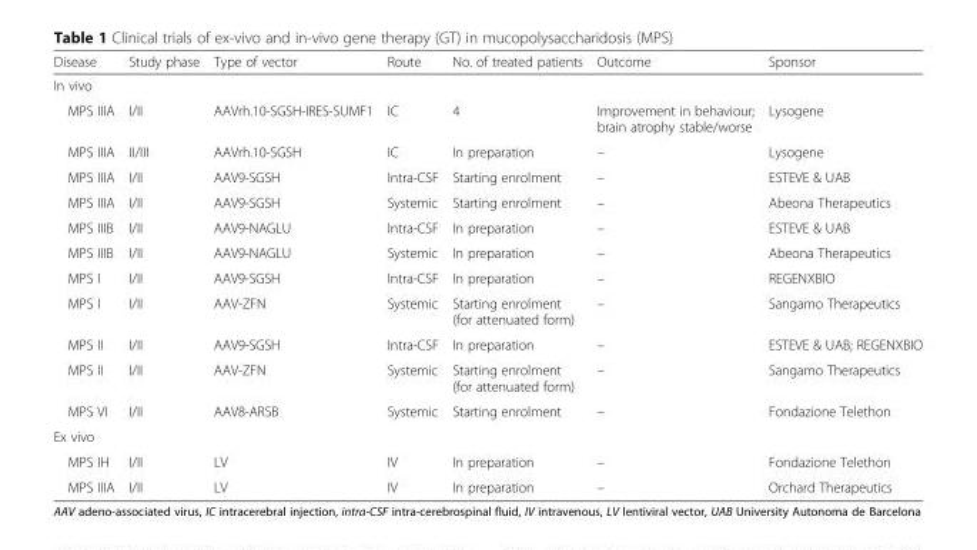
<table><thead><tr><td>Disease</td><td>Study phase</td><td>Type of vector</td><td>Route</td><td>No. of treated patients</td><td>Outcome</td><td>Sponsor</td></tr></thead><tbody><tr><td colspan="7">In vivo</td></tr><tr><td>MPS IIIA</td><td>I/II</td><td>AAVrh.10-SGSH-IRES-SUMF1</td><td>IC</td><td>4</td><td>Improvement in behaviour; brain atrophy stable/worse</td><td>Lysogene</td></tr><tr><td>MPS IIIA</td><td>II/III</td><td>AAVrh.10-SGSH</td><td>IC</td><td>In preparation</td><td>–</td><td>Lysogene</td></tr><tr><td>MPS IIIA</td><td>I/II</td><td>AAV9-SGSH</td><td>Intra-CSF</td><td>Starting enrolment</td><td>–</td><td>ESTEVE &amp; UAB</td></tr><tr><td>MPS IIIA</td><td>I/II</td><td>AAV9-SGSH</td><td>Systemic</td><td>Starting enrolment</td><td>–</td><td>Abeona Therapeutics</td></tr><tr><td>MPS IIIB</td><td>I/II</td><td>AAV9-NAGLU</td><td>Intra-CSF</td><td>In preparation</td><td>–</td><td>ESTEVE &amp; UAB</td></tr><tr><td>MPS IIIB</td><td>I/II</td><td>AAV9-NAGLU</td><td>Systemic</td><td>In preparation</td><td>–</td><td>Abeona Therapeutics</td></tr><tr><td>MPS I</td><td>I/II</td><td>AAV9-SGSH</td><td>Intra-CSF</td><td>In preparation</td><td>–</td><td>REGENXBIO</td></tr><tr><td>MPS I</td><td>I/II</td><td>AAV-ZFN</td><td>Systemic</td><td>Starting enrolment (for attenuated form)</td><td>–</td><td>Sangamo Therapeutics</td></tr><tr><td>MPS II</td><td>I/II</td><td>AAV9-SGSH</td><td>Intra-CSF</td><td>In preparation</td><td>–</td><td>ESTEVE &amp; UAB; REGENXBIO</td></tr><tr><td>MPS II</td><td>I/II</td><td>AAV-ZFN</td><td>Systemic</td><td>Starting enrolment (for attenuated form)</td><td>–</td><td>Sangamo Therapeutics</td></tr><tr><td>MPS VI</td><td>I/II</td><td>AAV8-ARSB</td><td>Systemic</td><td>Starting enrolment</td><td>–</td><td>Fondazione Telethon</td></tr><tr><td colspan="7">Ex vivo</td></tr><tr><td>MPS IH</td><td>I/II</td><td>LV</td><td>IV</td><td>In preparation</td><td>–</td><td>Fondazione Telethon</td></tr><tr><td>MPS IIIA</td><td>I/II</td><td>LV</td><td>IV</td><td>In preparation</td><td>–</td><td>Orchard Therapeutics</td></tr></tbody></table>